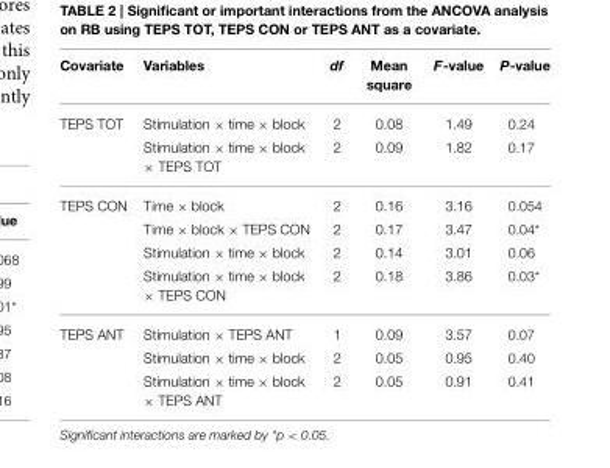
<table><thead><tr><td>Covariate</td><td>Variables</td><td>df</td><td>Mean square</td><td>F-value</td><td>P-value</td></tr></thead><tbody><tr><td rowspan="2">TEPS TOT</td><td>Stimulation × time × block</td><td>2</td><td>0.08</td><td>1.49</td><td>0.24</td></tr><tr><td>Stimulation × time × block × TEPS TOT</td><td>2</td><td>0.09</td><td>1.82</td><td>0.17</td></tr><tr><td rowspan="4">TEPS CON</td><td>Time × block</td><td>2</td><td>0.16</td><td>3.16</td><td>0.054</td></tr><tr><td>Time × block × TEPS CON</td><td>2</td><td>0.17</td><td>3.47</td><td>0.04*</td></tr><tr><td>Stimulation × time × block</td><td>2</td><td>0.14</td><td>3.01</td><td>0.06</td></tr><tr><td>Stimulation × time × block × TEPS CON</td><td>2</td><td>0.18</td><td>3.86</td><td>0.03*</td></tr><tr><td rowspan="3">TEPS ANT</td><td>Stimulation × TEPS ANT</td><td>1</td><td>0.09</td><td>3.57</td><td>0.07</td></tr><tr><td>Stimulation × time × block</td><td>2</td><td>0.05</td><td>0.95</td><td>0.40</td></tr><tr><td>Stimulation × time × block × TEPS ANT</td><td>2</td><td>0.05</td><td>0.91</td><td>0.41</td></tr></tbody></table>